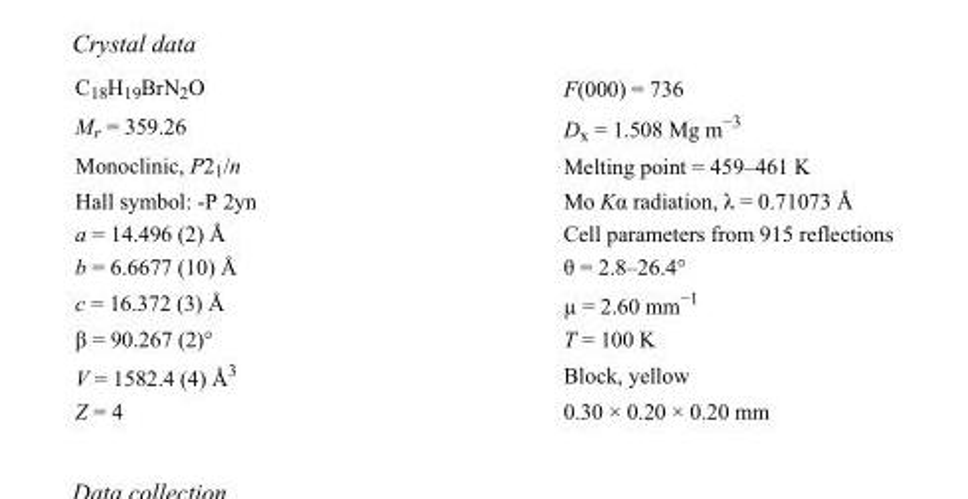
<table><tbody><tr><td>C<sub>18</sub>H<sub>19</sub>BrN<sub>2</sub>O</td><td>F(000) = 736</td></tr><tr><td>M<sub>r</sub> = 359.26</td><td>D<sub>x</sub> = 1.508 Mg m<sup>−3</sup></td></tr><tr><td>Monoclinic, P2<sub>1</sub>/n</td><td>Melting point = 459–461 K</td></tr><tr><td>Hall symbol: -P 2yn</td><td>Mo Kα radiation, λ = 0.71073 Å</td></tr><tr><td>a = 14.496 (2) Å</td><td>Cell parameters from 915 reflections</td></tr><tr><td>b = 6.6677 (10) Å</td><td>θ = 2.8–26.4°</td></tr><tr><td>c = 16.372 (3) Å</td><td>µ = 2.60 mm<sup>−1</sup></td></tr><tr><td>β = 90.267 (2)°</td><td>T = 100 K</td></tr><tr><td>V = 1582.4 (4) Å<sup>3</sup></td><td>Block, yellow</td></tr><tr><td>Z = 4</td><td>0.30 × 0.20 × 0.20 mm</td></tr></tbody></table>